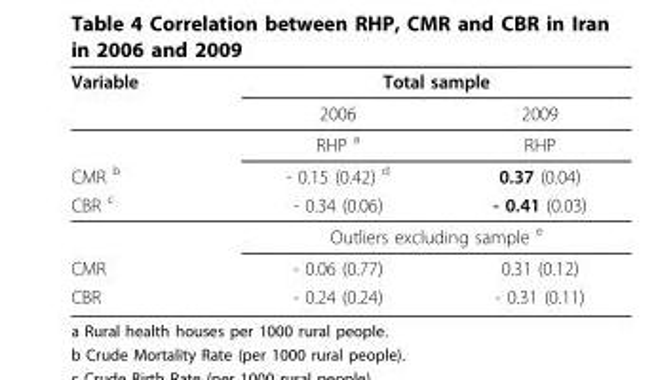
<table><thead><tr><td rowspan="2">Variable</td><td colspan="2">Total sample</td></tr><tr><td>2006</td><td>2009</td></tr></thead><tbody><tr><td></td><td>RHP <sup>a</sup></td><td>RHP</td></tr><tr><td>CMR <sup>b</sup></td><td>- 0.15 (0.42) <sup>d</sup></td><td>0.37 (0.04)</td></tr><tr><td rowspan="2">CBR <sup>c</sup></td><td>- 0.34 (0.06)</td><td>- 0.41 (0.03)</td></tr><tr><td colspan="2">Outliers excluding sample <sup>e</sup></td></tr><tr><td>CMR</td><td>- 0.06 (0.77)</td><td>0.31 (0.12)</td></tr><tr><td>CBR</td><td>- 0.24 (0.24)</td><td>- 0.31 (0.11)</td></tr></tbody></table>